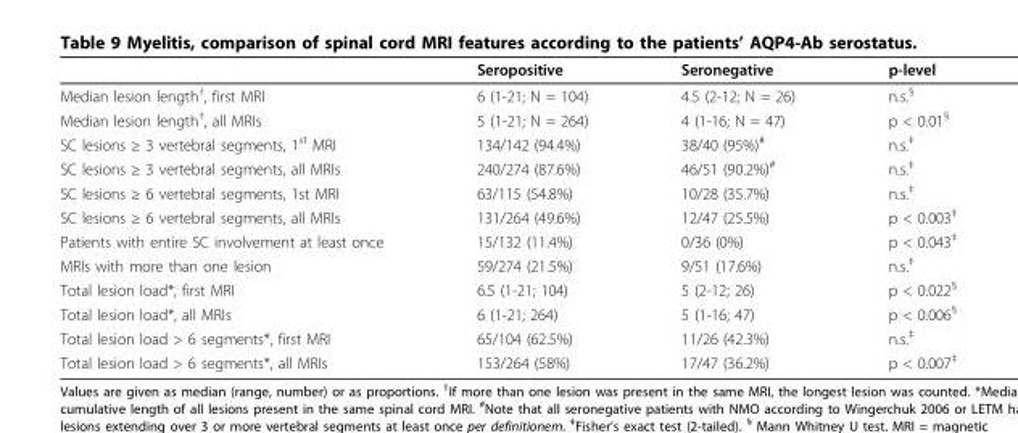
<table><thead><tr><td></td><td>Seropositive</td><td>Seronegative</td><td>p-level</td></tr></thead><tbody><tr><td>Median lesion length<sup>†</sup>, first MRI</td><td>6 (1-21; N = 104)</td><td>4.5 (2-12; N = 26)</td><td>n.s.<sup>§</sup></td></tr><tr><td>Median lesion length<sup>†</sup>, all MRIs</td><td>5 (1-21; N = 264)</td><td>4 (1-16; N = 47)</td><td>p &lt; 0.01<sup>§</sup></td></tr><tr><td>SC lesions ≥ 3 vertebral segments, 1<sup>st</sup> MRI</td><td>134/142 (94.4%)</td><td>38/40 (95%)<sup>#</sup></td><td>n.s.<sup>‡</sup></td></tr><tr><td>SC lesions ≥ 3 vertebral segments, all MRIs</td><td>240/274 (87.6%)</td><td>46/51 (90.2%)<sup>#</sup></td><td>n.s.<sup>‡</sup></td></tr><tr><td>SC lesions ≥ 6 vertebral segments, 1st MRI</td><td>63/115 (54.8%)</td><td>10/28 (35.7%)</td><td>n.s.<sup>‡</sup></td></tr><tr><td>SC lesions ≥ 6 vertebral segments, all MRIs</td><td>131/264 (49.6%)</td><td>12/47 (25.5%)</td><td>p &lt; 0.003<sup>‡</sup></td></tr><tr><td>Patients with entire SC involvement at least once</td><td>15/132 (11.4%)</td><td>0/36 (0%)</td><td>p &lt; 0.043<sup>‡</sup></td></tr><tr><td>MRIs with more than one lesion</td><td>59/274 (21.5%)</td><td>9/51 (17.6%)</td><td>n.s.<sup>‡</sup></td></tr><tr><td>Total lesion load*, first MRI</td><td>6.5 (1-21; 104)</td><td>5 (2-12; 26)</td><td>p &lt; 0.022<sup>§</sup></td></tr><tr><td>Total lesion load*, all MRIs</td><td>6 (1-21; 264)</td><td>5 (1-16; 47)</td><td>p &lt; 0.006<sup>§</sup></td></tr><tr><td>Total lesion load &gt; 6 segments*, first MRI</td><td>65/104 (62.5%)</td><td>11/26 (42.3%)</td><td>n.s.<sup>‡</sup></td></tr><tr><td>Total lesion load &gt; 6 segments*, all MRIs</td><td>153/264 (58%)</td><td>17/47 (36.2%)</td><td>p &lt; 0.007<sup>‡</sup></td></tr></tbody></table>